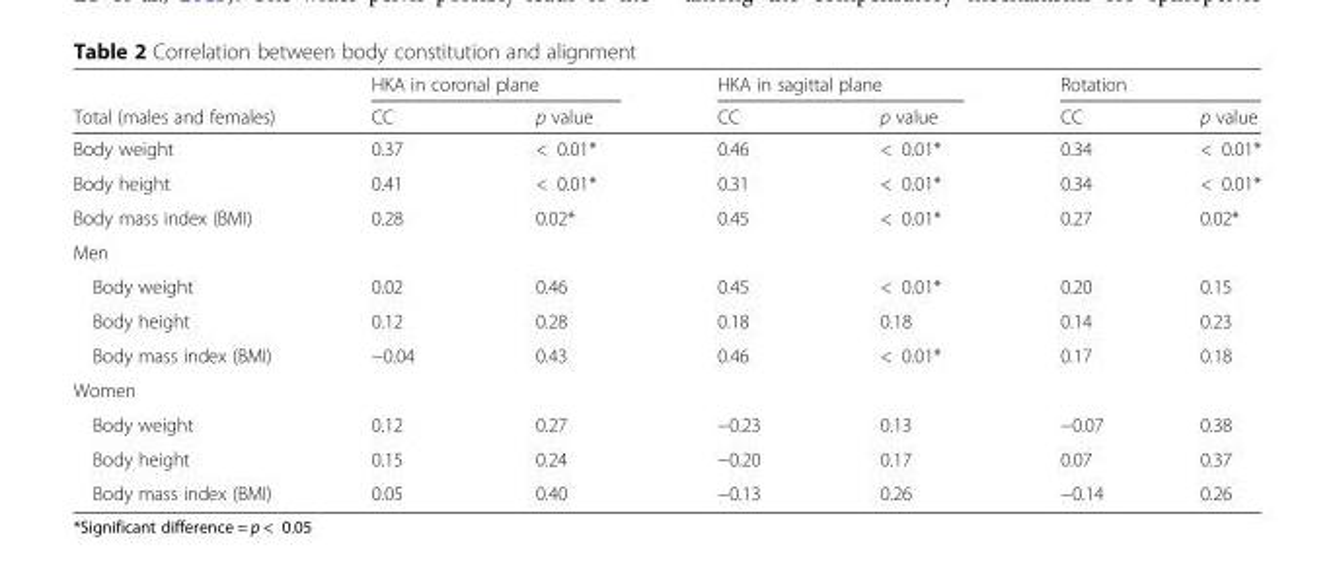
<table><thead><tr><td rowspan="2">Total (males and females)</td><td colspan="2">HKA in coronal plane</td><td colspan="2">HKA in sagittal plane</td><td colspan="2">Rotation</td></tr><tr><td>CC</td><td>p value</td><td>CC</td><td>p value</td><td>CC</td><td>p value</td></tr></thead><tbody><tr><td>Body weight</td><td>0.37</td><td>&lt; 0.01*</td><td>0.46</td><td>&lt; 0.01*</td><td>0.34</td><td>&lt; 0.01*</td></tr><tr><td>Body height</td><td>0.41</td><td>&lt; 0.01*</td><td>0.31</td><td>&lt; 0.01*</td><td>0.34</td><td>&lt; 0.01*</td></tr><tr><td>Body mass index (BMI)</td><td>0.28</td><td>0.02*</td><td>0.45</td><td>&lt; 0.01*</td><td>0.27</td><td>0.02*</td></tr><tr><td colspan="7">Men</td></tr><tr><td>Body weight</td><td>0.02</td><td>0.46</td><td>0.45</td><td>&lt; 0.01*</td><td>0.20</td><td>0.15</td></tr><tr><td>Body height</td><td>0.12</td><td>0.28</td><td>0.18</td><td>0.18</td><td>0.14</td><td>0.23</td></tr><tr><td>Body mass index (BMI)</td><td>−0.04</td><td>0.43</td><td>0.46</td><td>&lt; 0.01*</td><td>0.17</td><td>0.18</td></tr><tr><td colspan="7">Women</td></tr><tr><td>Body weight</td><td>0.12</td><td>0.27</td><td>−0.23</td><td>0.13</td><td>−0.07</td><td>0.38</td></tr><tr><td>Body height</td><td>0.15</td><td>0.24</td><td>−0.20</td><td>0.17</td><td>0.07</td><td>0.37</td></tr><tr><td>Body mass index (BMI)</td><td>0.05</td><td>0.40</td><td>−0.13</td><td>0.26</td><td>−0.14</td><td>0.26</td></tr></tbody></table>